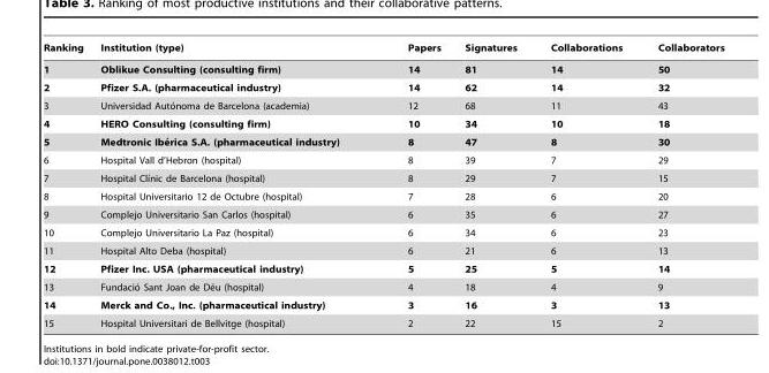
<table><thead><tr><td>Ranking</td><td>Institution (type)</td><td>Papers</td><td>Signatures</td><td>Collaborations</td><td>Collaborators</td></tr></thead><tbody><tr><td>1</td><td>Oblikue Consulting (consulting firm)</td><td>14</td><td>81</td><td>14</td><td>50</td></tr><tr><td>2</td><td>Pfizer S.A. (pharmaceutical industry)</td><td>14</td><td>62</td><td>14</td><td>32</td></tr><tr><td>3</td><td>Universidad Auto´noma de Barcelona (academia)</td><td>12</td><td>68</td><td>11</td><td>43</td></tr><tr><td>4</td><td>HERO Consulting (consulting firm)</td><td>10</td><td>34</td><td>10</td><td>18</td></tr><tr><td>5</td><td>Medtronic Ibe´rica S.A. (pharmaceutical industry)</td><td>8</td><td>47</td><td>8</td><td>30</td></tr><tr><td>6</td><td>Hospital Vall d’Hebron (hospital)</td><td>8</td><td>39</td><td>7</td><td>29</td></tr><tr><td>7</td><td>Hospital Clı´nic de Barcelona (hospital)</td><td>8</td><td>29</td><td>7</td><td>15</td></tr><tr><td>8</td><td>Hospital Universitario 12 de Octubre (hospital)</td><td>7</td><td>28</td><td>6</td><td>20</td></tr><tr><td>9</td><td>Complejo Universitario San Carlos (hospital)</td><td>6</td><td>35</td><td>6</td><td>27</td></tr><tr><td>10</td><td>Complejo Universitario La Paz (hospital)</td><td>6</td><td>34</td><td>6</td><td>23</td></tr><tr><td>11</td><td>Hospital Alto Deba (hospital)</td><td>6</td><td>21</td><td>6</td><td>13</td></tr><tr><td>12</td><td>Pfizer Inc. USA (pharmaceutical industry)</td><td>5</td><td>25</td><td>5</td><td>14</td></tr><tr><td>13</td><td>Fundacio´ Sant Joan de De´u (hospital)</td><td>4</td><td>18</td><td>4</td><td>9</td></tr><tr><td>14</td><td>Merck and Co., Inc. (pharmaceutical industry)</td><td>3</td><td>16</td><td>3</td><td>13</td></tr><tr><td>15</td><td>Hospital Universitari de Bellvitge (hospital)</td><td>2</td><td>22</td><td>15</td><td>2</td></tr></tbody></table>